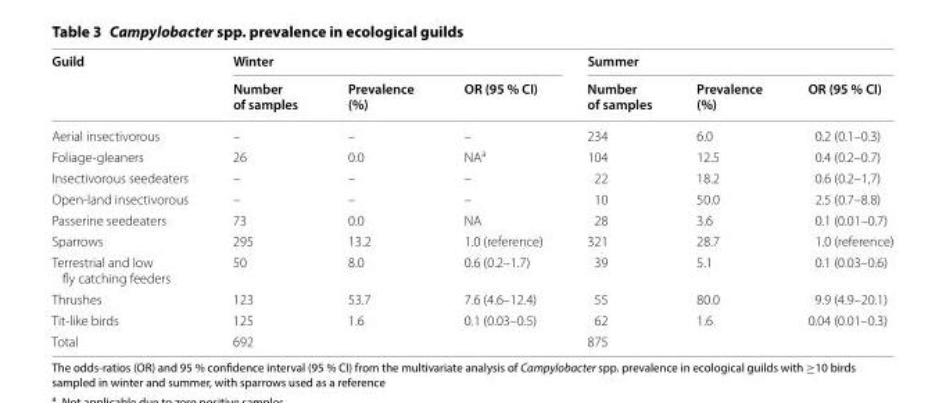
<table><thead><tr><td rowspan="2">Guild</td><td colspan="3">Winter</td><td colspan="3">Summer</td></tr><tr><td>Number of samples</td><td>Prevalence (%)</td><td>OR (95 % CI)</td><td>Number of samples</td><td>Prevalence (%)</td><td>OR (95 % CI)</td></tr></thead><tbody><tr><td>Aerial insectivorous</td><td>–</td><td>–</td><td>–</td><td>234</td><td>6.0</td><td>0.2 (0.1–0.3)</td></tr><tr><td>Foliage-gleaners</td><td>26</td><td>0.0</td><td>NA<sup>a</sup></td><td>104</td><td>12.5</td><td>0.4 (0.2–0.7)</td></tr><tr><td>Insectivorous seedeaters</td><td>–</td><td>–</td><td>–</td><td>22</td><td>18.2</td><td>0.6 (0.2–1,7)</td></tr><tr><td>Open-land insectivorous</td><td>–</td><td>–</td><td>–</td><td>10</td><td>50.0</td><td>2.5 (0.7–8.8)</td></tr><tr><td>Passerine seedeaters</td><td>73</td><td>0.0</td><td>NA</td><td>28</td><td>3.6</td><td>0.1 (0.01–0.7)</td></tr><tr><td>Sparrows</td><td>295</td><td>13.2</td><td>1.0 (reference)</td><td>321</td><td>28.7</td><td>1.0 (reference)</td></tr><tr><td>Terrestrial and low fly catching feeders</td><td>50</td><td>8.0</td><td>0.6 (0.2–1.7)</td><td>39</td><td>5.1</td><td>0.1 (0.03–0.6)</td></tr><tr><td>Thrushes</td><td>123</td><td>53.7</td><td>7.6 (4.6–12.4)</td><td>55</td><td>80.0</td><td>9.9 (4.9–20.1)</td></tr><tr><td>Tit-like birds</td><td>125</td><td>1.6</td><td>0.1 (0.03–0.5)</td><td>62</td><td>1.6</td><td>0.04 (0.01–0.3)</td></tr><tr><td>Total</td><td>692</td><td></td><td></td><td>875</td><td></td><td></td></tr></tbody></table>